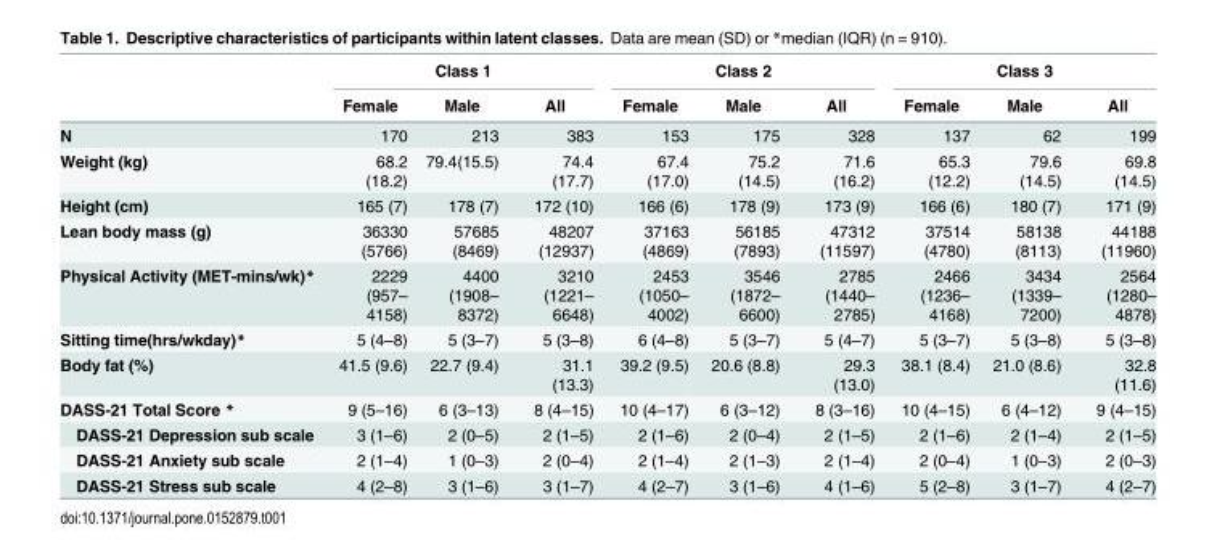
<table><thead><tr><td rowspan="2"></td><td colspan="3">Class 1</td><td colspan="3">Class 2</td><td colspan="3">Class 3</td></tr><tr><td>Female</td><td>Male</td><td>All</td><td>Female</td><td>Male</td><td>All</td><td>Female</td><td>Male</td><td>All</td></tr></thead><tbody><tr><td>N</td><td>170</td><td>213</td><td>383</td><td>153</td><td>175</td><td>328</td><td>137</td><td>62</td><td>199</td></tr><tr><td>Weight (kg)</td><td>68.2 (18.2)</td><td>79.4(15.5)</td><td>74.4 (17.7)</td><td>67.4 (17.0)</td><td>75.2 (14.5)</td><td>71.6 (16.2)</td><td>65.3 (12.2)</td><td>79.6 (14.5)</td><td>69.8 (14.5)</td></tr><tr><td>Height (cm)</td><td>165 (7)</td><td>178 (7)</td><td>172 (10)</td><td>166 (6)</td><td>178 (9)</td><td>173 (9)</td><td>166 (6)</td><td>180 (7)</td><td>171 (9)</td></tr><tr><td>Lean body mass (g)</td><td>36330 (5766)</td><td>57685 (8469)</td><td>48207 (12937)</td><td>37163 (4869)</td><td>56185 (7893)</td><td>47312 (11597)</td><td>37514 (4780)</td><td>58138 (8113)</td><td>44188 (11960)</td></tr><tr><td>Physical Activity (MET-mins/wk)*</td><td>2229 (957– 4158)</td><td>4400 (1908– 8372)</td><td>3210 (1221– 6648)</td><td>2453 (1050– 4002)</td><td>3546 (1872– 6600)</td><td>2785 (1440– 2785)</td><td>2466 (1236– 4168)</td><td>3434 (1339– 7200)</td><td>2564 (1280– 4878)</td></tr><tr><td>Sitting time(hrs/wkday)*</td><td>5 (4–8)</td><td>5 (3–7)</td><td>5 (3–8)</td><td>6 (4–8)</td><td>5 (3–7)</td><td>5 (4–7)</td><td>5 (3–7)</td><td>5 (3–8)</td><td>5 (3–8)</td></tr><tr><td>Body fat (%)</td><td>41.5 (9.6)</td><td>22.7 (9.4)</td><td>31.1 (13.3)</td><td>39.2 (9.5)</td><td>20.6 (8.8)</td><td>29.3 (13.0)</td><td>38.1 (8.4)</td><td>21.0 (8.6)</td><td>32.8 (11.6)</td></tr><tr><td>DASS-21 Total Score *</td><td>9 (5–16)</td><td>6 (3–13)</td><td>8 (4–15)</td><td>10 (4–17)</td><td>6 (3–12)</td><td>8 (3–16)</td><td>10 (4–15)</td><td>6 (4–12)</td><td>9 (4–15)</td></tr><tr><td>DASS-21 Depression sub scale</td><td>3 (1–6)</td><td>2 (0–5)</td><td>2 (1–5)</td><td>2 (1–6)</td><td>2 (0–4)</td><td>2 (1–5)</td><td>2 (1–6)</td><td>2 (1–4)</td><td>2 (1–5)</td></tr><tr><td>DASS-21 Anxiety sub scale</td><td>2 (1–4)</td><td>1 (0–3)</td><td>2 (0–4)</td><td>2 (1–4)</td><td>2 (1–3)</td><td>2 (1–4)</td><td>2 (0–4)</td><td>1 (0–3)</td><td>2 (0–3)</td></tr><tr><td>DASS-21 Stress sub scale</td><td>4 (2–8)</td><td>3 (1–6)</td><td>3 (1–7)</td><td>4 (2–7)</td><td>3 (1–6)</td><td>4 (1–6)</td><td>5 (2–8)</td><td>3 (1–7)</td><td>4 (2–7)</td></tr></tbody></table>